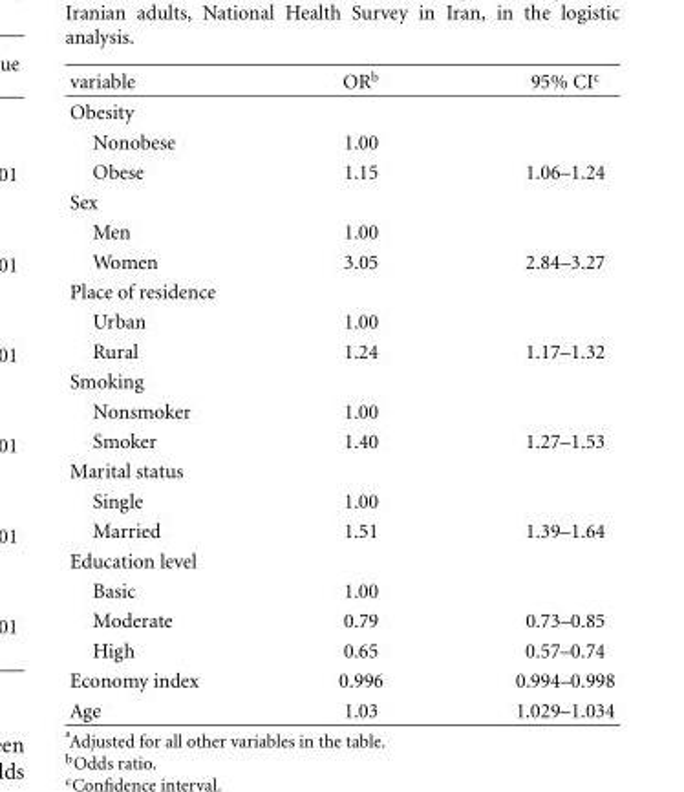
<table><thead><tr><td>variable</td><td>OR<sup>b</sup></td><td>95% CI<sup>c</sup></td></tr></thead><tbody><tr><td colspan="3">Obesity</td></tr><tr><td>Nonobese</td><td>1.00</td><td></td></tr><tr><td>Obese</td><td>1.15</td><td>1.06–1.24</td></tr><tr><td colspan="3">Sex</td></tr><tr><td>Men</td><td>1.00</td><td></td></tr><tr><td>Women</td><td>3.05</td><td>2.84–3.27</td></tr><tr><td colspan="3">Place of residence</td></tr><tr><td>Urban</td><td>1.00</td><td></td></tr><tr><td>Rural</td><td>1.24</td><td>1.17–1.32</td></tr><tr><td colspan="3">Smoking</td></tr><tr><td>Nonsmoker</td><td>1.00</td><td></td></tr><tr><td>Smoker</td><td>1.40</td><td>1.27–1.53</td></tr><tr><td colspan="3">Marital status</td></tr><tr><td>Single</td><td>1.00</td><td></td></tr><tr><td>Married</td><td>1.51</td><td>1.39–1.64</td></tr><tr><td colspan="3">Education level</td></tr><tr><td>Basic</td><td>1.00</td><td></td></tr><tr><td>Moderate</td><td>0.79</td><td>0.73–0.85</td></tr><tr><td>High</td><td>0.65</td><td>0.57–0.74</td></tr><tr><td>Economy index</td><td>0.996</td><td>0.994–0.998</td></tr><tr><td>Age</td><td>1.03</td><td>1.029–1.034</td></tr></tbody></table>